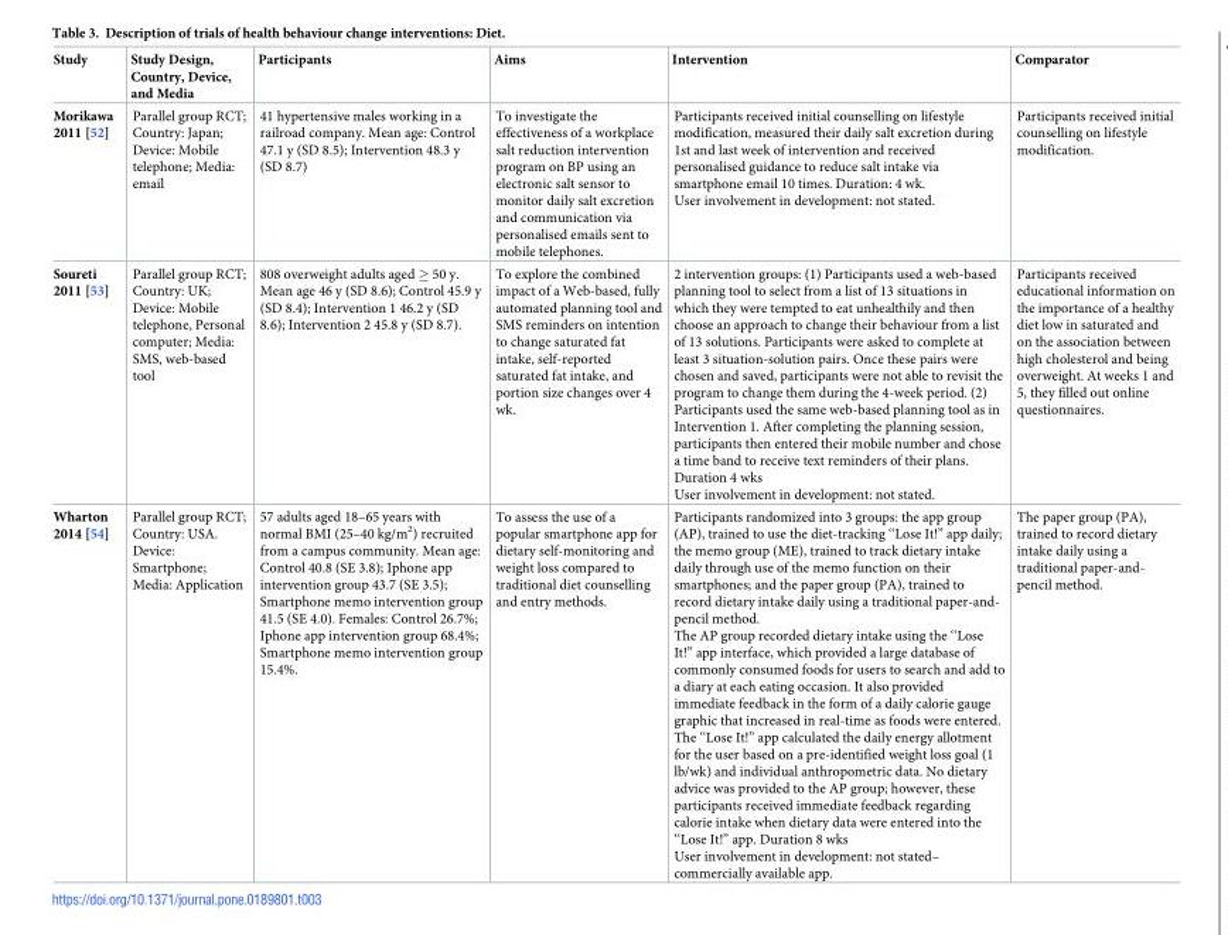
<table><thead><tr><td>Study</td><td>Study Design, Country, Device, and Media</td><td>Participants</td><td>Aims</td><td>Intervention</td><td>Comparator</td></tr></thead><tbody><tr><td>Morikawa 2011 [52]</td><td>Parallel group RCT; Country: Japan; Device: Mobile telephone; Media: email</td><td>41 hypertensive males working in a railroad company. Mean age: Control 47.1 y (SD 8.5); Intervention 48.3 y (SD 8.7)</td><td>To investigate the effectiveness of a workplace salt reduction intervention program on BP using an electronic salt sensor to monitor daily salt excretion and communication via personalised emails sent to mobile telephones.</td><td>Participants received initial counselling on lifestyle modification, measured their daily salt excretion during 1st and last week of intervention and received personalised guidance to reduce salt intake via smartphone email 10 times. Duration: 4 wk. User involvement in development: not stated.</td><td>Participants received initial counselling on lifestyle modification.</td></tr><tr><td>Soureti 2011 [53]</td><td>Parallel group RCT; Country: UK; Device: Mobile telephone, Personal computer; Media: SMS, web-based tool</td><td>808 overweight adults aged ≥ 50 y. Mean age 46 y (SD 8.6); Control 45.9 y (SD 8.4); Intervention 1 46.2 y (SD 8.6); Intervention 2 45.8 y (SD 8.7).</td><td>To explore the combined impact of a Web-based, fully automated planning tool and SMS reminders on intention to change saturated fat intake, self-reported saturated fat intake, and portion size changes over 4 wk.</td><td>2 intervention groups: (1) Participants used a web-based planning tool to select from a list of 13 situations in which they were tempted to eat unhealthily and then choose an approach to change their behaviour from a list of 13 solutions. Participants were asked to complete at least 3 situation-solution pairs. Once these pairs were chosen and saved, participants were not able to revisit the program to change them during the 4-week period. (2) Participants used the same web-based planning tool as in Intervention 1. After completing the planning session, participants then entered their mobile number and chose a time band to receive text reminders of their plans. Duration 4 wks User involvement in development: not stated.</td><td>Participants received educational information on the importance of a healthy diet low in saturated and on the association between high cholesterol and being overweight. At weeks 1 and 5, they filled out online questionnaires.</td></tr><tr><td>Wharton 2014 [54]</td><td>Parallel group RCT; Country: USA. Device: Smartphone; Media: Application</td><td>57 adults aged 18–65 years with normal BMI (25–40 kg/m<sup>2</sup>) recruited from a campus community. Mean age: Control 40.8 (SE 3.8); Iphone app intervention group 43.7 (SE 3.5); Smartphone memo intervention group 41.5 (SE 4.0). Females: Control 26.7%; Iphone app intervention group 68.4%; Smartphone memo intervention group 15.4%.</td><td>To assess the use of a popular smartphone app for dietary self-monitoring and weight loss compared to traditional diet counselling and entry methods.</td><td>Participants randomized into 3 groups: the app group (AP), trained to use the diet-tracking ‘‘Lose It!” app daily; the memo group (ME), trained to track dietary intake daily through use of the memo function on their smartphones; and the paper group (PA), trained to record dietary intake daily using a traditional paper-and- pencil method. The AP group recorded dietary intake using the ‘‘Lose It!” app interface, which provided a large database of commonly consumed foods for users to search and add to a diary at each eating occasion. It also provided immediate feedback in the form of a daily calorie gauge graphic that increased in real-time as foods were entered. The ‘‘Lose It!” app calculated the daily energy allotment for the user based on a pre-identified weight loss goal (1 lb/wk) and individual anthropometric data. No dietary advice was provided to the AP group; however, these participants received immediate feedback regarding calorie intake when dietary data were entered into the ‘‘Lose It!” app. Duration 8 wks User involvement in development: not stated– commercially available app.</td><td>The paper group (PA), trained to record dietary intake daily using a traditional paper-and- pencil method.</td></tr></tbody></table>